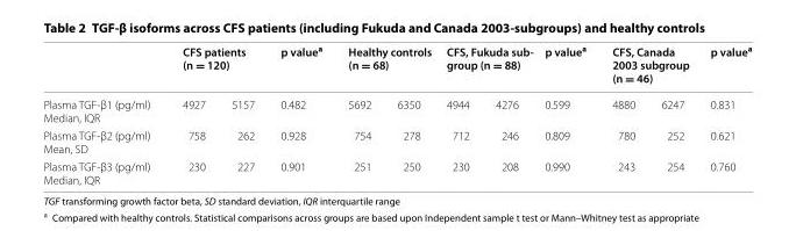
<table><thead><tr><td rowspan="2">Plasma TGF-β1 (pg/ml) Median, IQR</td><td colspan="2">CFS patients (n = 120)</td><td rowspan="2">p value<sup>a</sup> 0.482</td><td colspan="2">Healthy controls (n = 68)</td><td colspan="2">CFS, Fukuda sub‑ group (n = 88)</td><td rowspan="2">p value<sup>a</sup> 0.599</td><td colspan="2">CFS, Canada 2003 subgroup (n = 46)</td><td rowspan="2">p value<sup>a</sup> 0.831</td></tr><tr><td>4927</td><td>5157</td><td>5692</td><td>6350</td><td>4944</td><td>4276</td><td>4880</td><td>6247</td></tr></thead><tbody><tr><td>Plasma TGF-β2 (pg/ml) Mean, SD</td><td>758</td><td>262</td><td>0.928</td><td>754</td><td>278</td><td>712</td><td>246</td><td>0.809</td><td>780</td><td>252</td><td>0.621</td></tr><tr><td>Plasma TGF-β3 (pg/ml) Median, IQR</td><td>230</td><td>227</td><td>0.901</td><td>251</td><td>250</td><td>230</td><td>208</td><td>0.990</td><td>243</td><td>254</td><td>0.760</td></tr></tbody></table>